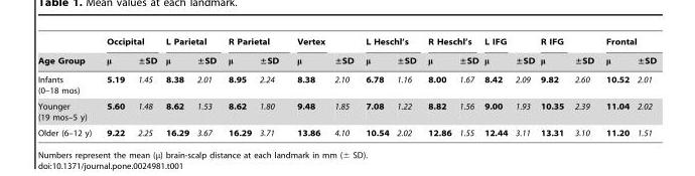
<table><thead><tr><td rowspan="2">Age Group</td><td colspan="2">Occipital</td><td colspan="2">L Parietal</td><td colspan="2">R Parietal</td><td rowspan="2">Vertex μ</td><td rowspan="2">±SD</td><td colspan="2">L Heschl’s</td><td colspan="2">R Heschl’s</td><td rowspan="2">L IFG μ</td><td rowspan="2">±SD</td><td rowspan="2">R IFG μ</td><td rowspan="2">±SD</td><td colspan="2">Frontal</td></tr><tr><td>μ</td><td>±SD</td><td>μ</td><td>±SD</td><td>μ</td><td>±SD</td><td>μ</td><td>±SD</td><td>μ</td><td>±SD</td><td>μ</td><td>±SD</td></tr></thead><tbody><tr><td>Infants (0–18 mos)</td><td>5.19</td><td>1.45</td><td>8.38</td><td>2.01</td><td>8.95</td><td>2.24</td><td>8.38</td><td>2.10</td><td>6.78</td><td>1.16</td><td>8.00</td><td>1.67</td><td>8.42</td><td>2.09</td><td>9.82</td><td>2.60</td><td>10.52</td><td>2.01</td></tr><tr><td>Younger (19 mos–5 y)</td><td>5.60</td><td>1.48</td><td>8.62</td><td>1.53</td><td>8.62</td><td>1.80</td><td>9.48</td><td>1.85</td><td>7.08</td><td>1.22</td><td>8.82</td><td>1.56</td><td>9.00</td><td>1.93</td><td>10.35</td><td>2.39</td><td>11.04</td><td>2.02</td></tr><tr><td>Older (6–12 y)</td><td>9.22</td><td>2.25</td><td>16.29</td><td>3.67</td><td>16.29</td><td>3.71</td><td>13.86</td><td>4.10</td><td>10.54</td><td>2.02</td><td>12.86</td><td>1.55</td><td>12.44</td><td>3.11</td><td>13.31</td><td>3.10</td><td>11.20</td><td>1.51</td></tr></tbody></table>